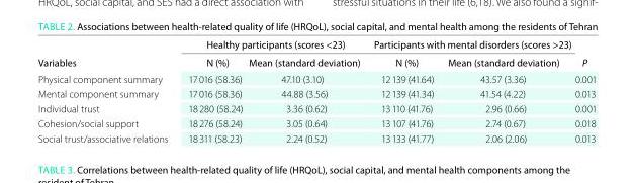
<table><thead><tr><td rowspan="2">Variables</td><td colspan="2">Healthy participants (scores &lt;23)</td><td colspan="2">Participants with mental disorders (scores &gt;23)</td><td rowspan="2">P</td></tr><tr><td>N (%)</td><td>Mean (standard deviation)</td><td>N (%)</td><td>Mean (standard deviation)</td></tr></thead><tbody><tr><td>Physical component summary</td><td>17 016 (58.36)</td><td>47.10 (3.10)</td><td>12 139 (41.64)</td><td>43.57 (3.36)</td><td>0.001</td></tr><tr><td>Mental component summary</td><td>17 016 (58.36)</td><td>44.88 (3.56)</td><td>12 139 (41.34)</td><td>41.54 (4.22)</td><td>0.013</td></tr><tr><td>Individual trust</td><td>18 280 (58.24)</td><td>3.36 (0.62)</td><td>13 110 (41.76)</td><td>2.96 (0.66)</td><td>0.001</td></tr><tr><td>Cohesion/social support</td><td>18 276 (58.24)</td><td>3.05 (0.64)</td><td>13 107 (41.76)</td><td>2.74 (0.67)</td><td>0.018</td></tr><tr><td>Social trust/associative relations</td><td>18 311 (58.23)</td><td>2.24 (0.52)</td><td>13 133 (41.77)</td><td>2.06 (2.06)</td><td>0.013</td></tr></tbody></table>